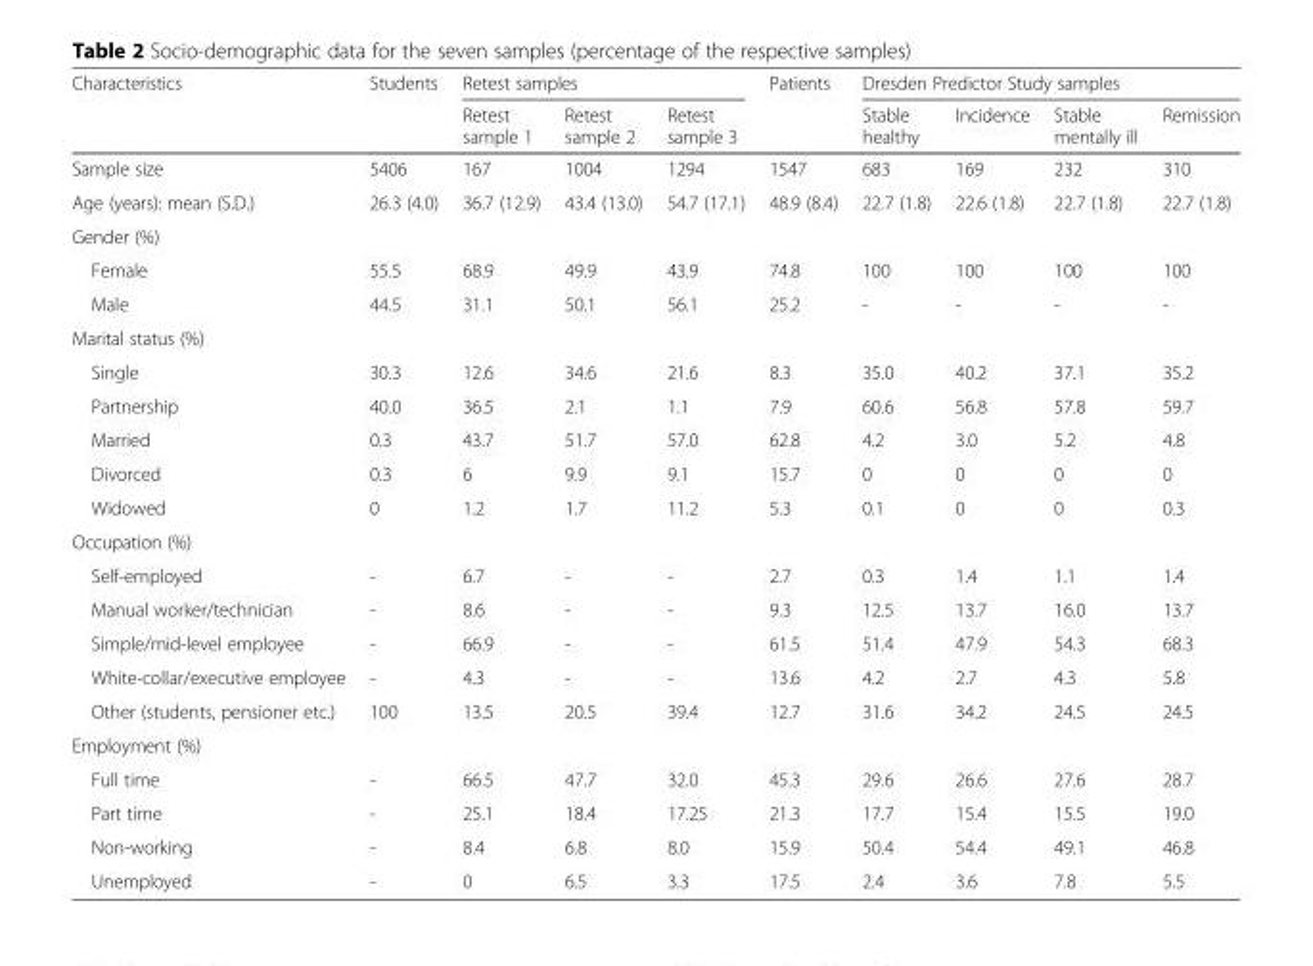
<table><thead><tr><td rowspan="2">Characteristics</td><td rowspan="2">Students</td><td colspan="3">Retest samples</td><td rowspan="2">Patients</td><td colspan="4">Dresden Predictor Study samples</td></tr><tr><td>Retest sample 1</td><td>Retest sample 2</td><td>Retest sample 3</td><td>Stable healthy</td><td>Incidence</td><td>Stable mentally ill</td><td>Remission</td></tr></thead><tbody><tr><td>Sample size</td><td>5406</td><td>167</td><td>1004</td><td>1294</td><td>1547</td><td>683</td><td>169</td><td>232</td><td>310</td></tr><tr><td>Age (years): mean (S.D.)</td><td>26.3 (4.0)</td><td>36.7 (12.9)</td><td>43.4 (13.0)</td><td>54.7 (17.1)</td><td>48.9 (8.4)</td><td>22.7 (1.8)</td><td>22.6 (1.8)</td><td>22.7 (1.8)</td><td>22.7 (1.8)</td></tr><tr><td colspan="10">Gender (%)</td></tr><tr><td>Female</td><td>55.5</td><td>68.9</td><td>49.9</td><td>43.9</td><td>74.8</td><td>100</td><td>100</td><td>100</td><td>100</td></tr><tr><td>Male</td><td>44.5</td><td>31.1</td><td>50.1</td><td>56.1</td><td>25.2</td><td>-</td><td>-</td><td>-</td><td>-</td></tr><tr><td colspan="10">Marital status (%)</td></tr><tr><td>Single</td><td>30.3</td><td>12.6</td><td>34.6</td><td>21.6</td><td>8.3</td><td>35.0</td><td>40.2</td><td>37.1</td><td>35.2</td></tr><tr><td>Partnership</td><td>40.0</td><td>36.5</td><td>2.1</td><td>1.1</td><td>7.9</td><td>60.6</td><td>56.8</td><td>57.8</td><td>59.7</td></tr><tr><td>Married</td><td>0.3</td><td>43.7</td><td>51.7</td><td>57.0</td><td>62.8</td><td>4.2</td><td>3.0</td><td>5.2</td><td>4.8</td></tr><tr><td>Divorced</td><td>0.3</td><td>6</td><td>9.9</td><td>9.1</td><td>15.7</td><td>0</td><td>0</td><td>0</td><td>0</td></tr><tr><td>Widowed</td><td>0</td><td>1.2</td><td>1.7</td><td>11.2</td><td>5.3</td><td>0.1</td><td>0</td><td>0</td><td>0.3</td></tr><tr><td colspan="10">Occupation (%)</td></tr><tr><td>Self-employed</td><td>-</td><td>6.7</td><td>-</td><td>-</td><td>2.7</td><td>0.3</td><td>1.4</td><td>1.1</td><td>1.4</td></tr><tr><td>Manual worker/technician</td><td>-</td><td>8.6</td><td>-</td><td>-</td><td>9.3</td><td>12.5</td><td>13.7</td><td>16.0</td><td>13.7</td></tr><tr><td>Simple/mid-level employee</td><td>-</td><td>66.9</td><td>-</td><td>-</td><td>61.5</td><td>51.4</td><td>47.9</td><td>54.3</td><td>68.3</td></tr><tr><td>White-collar/executive employee</td><td>-</td><td>4.3</td><td>-</td><td>-</td><td>13.6</td><td>4.2</td><td>2.7</td><td>4.3</td><td>5.8</td></tr><tr><td>Other (students, pensioner etc.)</td><td>100</td><td>13.5</td><td>20.5</td><td>39.4</td><td>12.7</td><td>31.6</td><td>34.2</td><td>24.5</td><td>24.5</td></tr><tr><td colspan="10">Employment (%)</td></tr><tr><td>Full time</td><td>-</td><td>66.5</td><td>47.7</td><td>32.0</td><td>45.3</td><td>29.6</td><td>26.6</td><td>27.6</td><td>28.7</td></tr><tr><td>Part time</td><td>-</td><td>25.1</td><td>18.4</td><td>17.25</td><td>21.3</td><td>17.7</td><td>15.4</td><td>15.5</td><td>19.0</td></tr><tr><td>Non-working</td><td>-</td><td>8.4</td><td>6.8</td><td>8.0</td><td>15.9</td><td>50.4</td><td>54.4</td><td>49.1</td><td>46.8</td></tr><tr><td>Unemployed</td><td>-</td><td>0</td><td>6.5</td><td>3.3</td><td>17.5</td><td>2.4</td><td>3.6</td><td>7.8</td><td>5.5</td></tr></tbody></table>